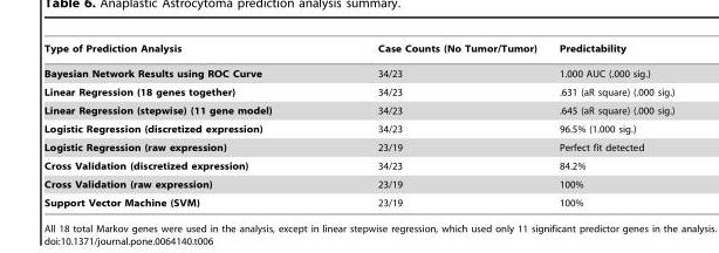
<table><thead><tr><td>Type of Prediction Analysis</td><td>Case Counts (No Tumor/Tumor)</td><td>Predictability</td></tr></thead><tbody><tr><td>Bayesian Network Results using ROC Curve</td><td>34/23</td><td>1.000 AUC (.000 sig.)</td></tr><tr><td>Linear Regression (18 genes together)</td><td>34/23</td><td>.631 (aR square) (.000 sig.)</td></tr><tr><td>Linear Regression (stepwise) (11 gene model)</td><td>34/23</td><td>.645 (aR square) (.000 sig.)</td></tr><tr><td>Logistic Regression (discretized expression)</td><td>34/23</td><td>96.5% (1.000 sig.)</td></tr><tr><td>Logistic Regression (raw expression)</td><td>23/19</td><td>Perfect fit detected</td></tr><tr><td>Cross Validation (discretized expression)</td><td>34/23</td><td>84.2%</td></tr><tr><td>Cross Validation (raw expression)</td><td>23/19</td><td>100%</td></tr><tr><td>Support Vector Machine (SVM)</td><td>23/19</td><td>100%</td></tr></tbody></table>